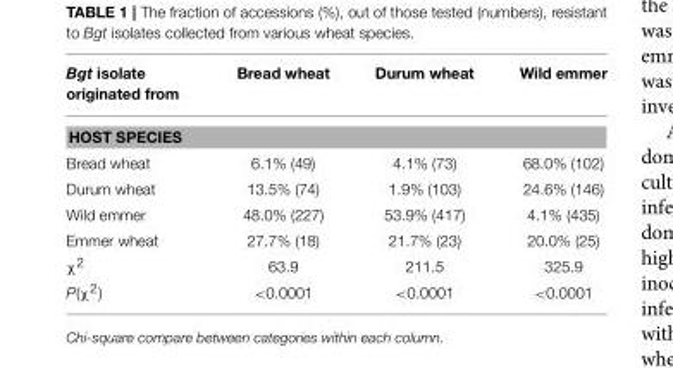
<table><thead><tr><td>Bgt isolate originated from</td><td>Bread wheat</td><td>Durum wheat</td><td>Wild emmer</td></tr></thead><tbody><tr><td colspan="4">HOST SPECIES</td></tr><tr><td>Bread wheat</td><td>6.1% (49)</td><td>4.1% (73)</td><td>68.0% (102)</td></tr><tr><td>Durum wheat</td><td>13.5% (74)</td><td>1.9% (103)</td><td>24.6% (146)</td></tr><tr><td>Wild emmer</td><td>48.0% (227)</td><td>53.9% (417)</td><td>4.1% (435)</td></tr><tr><td>Emmer wheat</td><td>27.7% (18)</td><td>21.7% (23)</td><td>20.0% (25)</td></tr><tr><td>χ<sup>2</sup></td><td>63.9</td><td>211.5</td><td>325.9</td></tr><tr><td>P(χ<sup>2</sup>)</td><td>&lt;0.0001</td><td>&lt;0.0001</td><td>&lt;0.0001</td></tr></tbody></table>